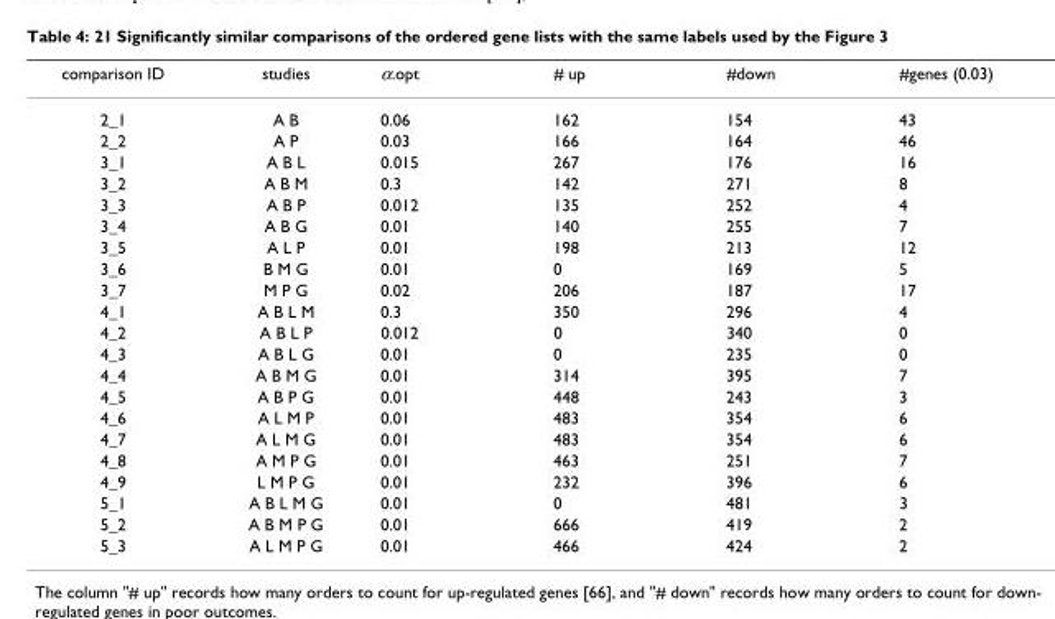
<table><thead><tr><td>comparison ID</td><td>studies</td><td>α.opt</td><td># up</td><td>#down</td><td>#genes (0.03)</td></tr></thead><tbody><tr><td>2_1</td><td>A B</td><td>0.06</td><td>162</td><td>154</td><td>43</td></tr><tr><td>2_2</td><td>A P</td><td>0.03</td><td>166</td><td>164</td><td>46</td></tr><tr><td>3_1</td><td>A B L</td><td>0.015</td><td>267</td><td>176</td><td>16</td></tr><tr><td>3_2</td><td>A B M</td><td>0.3</td><td>142</td><td>271</td><td>8</td></tr><tr><td>3_3</td><td>A B P</td><td>0.012</td><td>135</td><td>252</td><td>4</td></tr><tr><td>3_4</td><td>A B G</td><td>0.01</td><td>140</td><td>255</td><td>7</td></tr><tr><td>3_5</td><td>A L P</td><td>0.01</td><td>198</td><td>213</td><td>12</td></tr><tr><td>3_6</td><td>B M G</td><td>0.01</td><td>0</td><td>169</td><td>5</td></tr><tr><td>3_7</td><td>M P G</td><td>0.02</td><td>206</td><td>187</td><td>17</td></tr><tr><td>4_1</td><td>A B L M</td><td>0.3</td><td>350</td><td>296</td><td>4</td></tr><tr><td>4_2</td><td>A B L P</td><td>0.012</td><td>0</td><td>340</td><td>0</td></tr><tr><td>4_3</td><td>A B L G</td><td>0.01</td><td>0</td><td>235</td><td>0</td></tr><tr><td>4_4</td><td>A B M G</td><td>0.01</td><td>314</td><td>395</td><td>7</td></tr><tr><td>4_5</td><td>A B P G</td><td>0.01</td><td>448</td><td>243</td><td>3</td></tr><tr><td>4_6</td><td>A L M P</td><td>0.01</td><td>483</td><td>354</td><td>6</td></tr><tr><td>4_7</td><td>A L M G</td><td>0.01</td><td>483</td><td>354</td><td>6</td></tr><tr><td>4_8</td><td>A M P G</td><td>0.01</td><td>463</td><td>251</td><td>7</td></tr><tr><td>4_9</td><td>L M P G</td><td>0.01</td><td>232</td><td>396</td><td>6</td></tr><tr><td>5_1</td><td>A B L M G</td><td>0.01</td><td>0</td><td>481</td><td>3</td></tr><tr><td>5_2</td><td>A B M P G</td><td>0.01</td><td>666</td><td>419</td><td>2</td></tr><tr><td>5_3</td><td>A L M P G</td><td>0.01</td><td>466</td><td>424</td><td>2</td></tr></tbody></table>